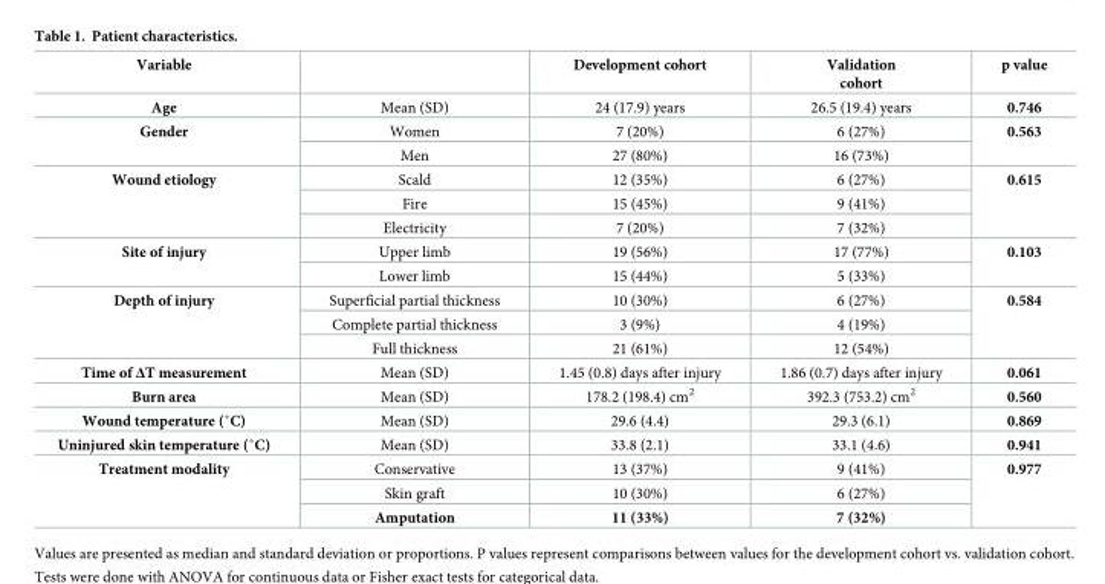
<table><thead><tr><td>Variable</td><td></td><td>Development cohort</td><td>Validation cohort</td><td>p value</td></tr></thead><tbody><tr><td>Age</td><td>Mean (SD)</td><td>24 (17.9) years</td><td>26.5 (19.4) years</td><td>0.746</td></tr><tr><td rowspan="2">Gender</td><td>Women</td><td>7 (20%)</td><td>6 (27%)</td><td rowspan="2">0.563</td></tr><tr><td>Men</td><td>27 (80%)</td><td>16 (73%)</td></tr><tr><td rowspan="3">Wound etiology</td><td>Scald</td><td>12 (35%)</td><td>6 (27%)</td><td rowspan="3">0.615</td></tr><tr><td>Fire</td><td>15 (45%)</td><td>9 (41%)</td></tr><tr><td>Electricity</td><td>7 (20%)</td><td>7 (32%)</td></tr><tr><td rowspan="2">Site of injury</td><td>Upper limb</td><td>19 (56%)</td><td>17 (77%)</td><td rowspan="2">0.103</td></tr><tr><td>Lower limb</td><td>15 (44%)</td><td>5 (33%)</td></tr><tr><td rowspan="3">Depth of injury</td><td>Superficial partial thickness</td><td>10 (30%)</td><td>6 (27%)</td><td rowspan="3">0.584</td></tr><tr><td>Complete partial thickness</td><td>3 (9%)</td><td>4 (19%)</td></tr><tr><td>Full thickness</td><td>21 (61%)</td><td>12 (54%)</td></tr><tr><td>Time of ΔT measurement</td><td>Mean (SD)</td><td>1.45 (0.8) days after injury</td><td>1.86 (0.7) days after injury</td><td>0.061</td></tr><tr><td>Burn area</td><td>Mean (SD)</td><td>178.2 (198.4) cm<sup>2</sup></td><td>392.3 (753.2) cm<sup>2</sup></td><td>0.560</td></tr><tr><td>Wound temperature (˚C)</td><td>Mean (SD)</td><td>29.6 (4.4)</td><td>29.3 (6.1)</td><td>0.869</td></tr><tr><td>Uninjured skin temperature (˚C)</td><td>Mean (SD)</td><td>33.8 (2.1)</td><td>33.1 (4.6)</td><td>0.941</td></tr><tr><td rowspan="3">Treatment modality</td><td>Conservative</td><td>13 (37%)</td><td>9 (41%)</td><td rowspan="3">0.977</td></tr><tr><td>Skin graft</td><td>10 (30%)</td><td>6 (27%)</td></tr><tr><td>Amputation</td><td>11 (33%)</td><td>7 (32%)</td></tr></tbody></table>